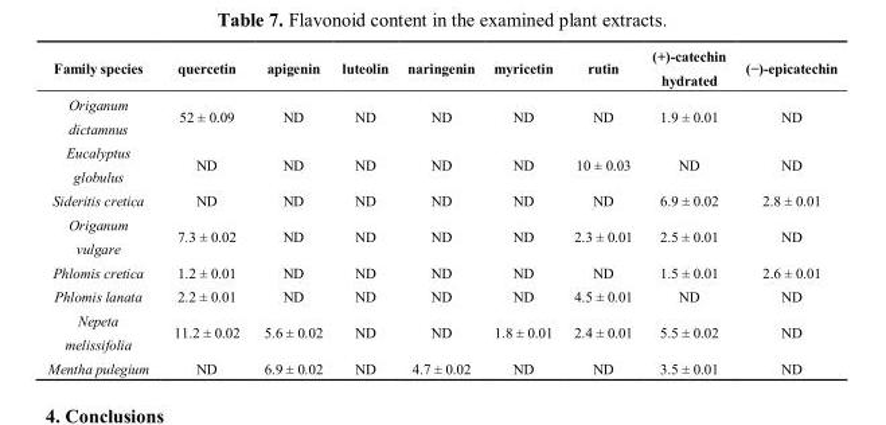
<table><thead><tr><td>Family species</td><td>quercetin</td><td>apigenin</td><td>luteolin</td><td>naringenin</td><td>myricetin</td><td>rutin</td><td>(+)-catechin hydrated</td><td>(−)-epicatechin</td></tr></thead><tbody><tr><td>Origanum dictamnus</td><td>52 ± 0.09</td><td>ND</td><td>ND</td><td>ND</td><td>ND</td><td>ND</td><td>1.9 ± 0.01</td><td>ND</td></tr><tr><td>Eucalyptus globulus</td><td>ND</td><td>ND</td><td>ND</td><td>ND</td><td>ND</td><td>10 ± 0.03</td><td>ND</td><td>ND</td></tr><tr><td>Sideritis cretica</td><td>ND</td><td>ND</td><td>ND</td><td>ND</td><td>ND</td><td>ND</td><td>6.9 ± 0.02</td><td>2.8 ± 0.01</td></tr><tr><td>Origanum vulgare</td><td>7.3 ± 0.02</td><td>ND</td><td>ND</td><td>ND</td><td>ND</td><td>2.3 ± 0.01</td><td>2.5 ± 0.01</td><td>ND</td></tr><tr><td>Phlomis cretica</td><td>1.2 ± 0.01</td><td>ND</td><td>ND</td><td>ND</td><td>ND</td><td>ND</td><td>1.5 ± 0.01</td><td>2.6 ± 0.01</td></tr><tr><td>Phlomis lanata</td><td>2.2 ± 0.01</td><td>ND</td><td>ND</td><td>ND</td><td>ND</td><td>4.5 ± 0.01</td><td>ND</td><td>ND</td></tr><tr><td>Nepeta melissifolia</td><td>11.2 ± 0.02</td><td>5.6 ± 0.02</td><td>ND</td><td>ND</td><td>1.8 ± 0.01</td><td>2.4 ± 0.01</td><td>5.5 ± 0.02</td><td>ND</td></tr><tr><td>Mentha pulegium</td><td>ND</td><td>6.9 ± 0.02</td><td>ND</td><td>4.7 ± 0.02</td><td>ND</td><td>ND</td><td>3.5 ± 0.01</td><td>ND</td></tr></tbody></table>